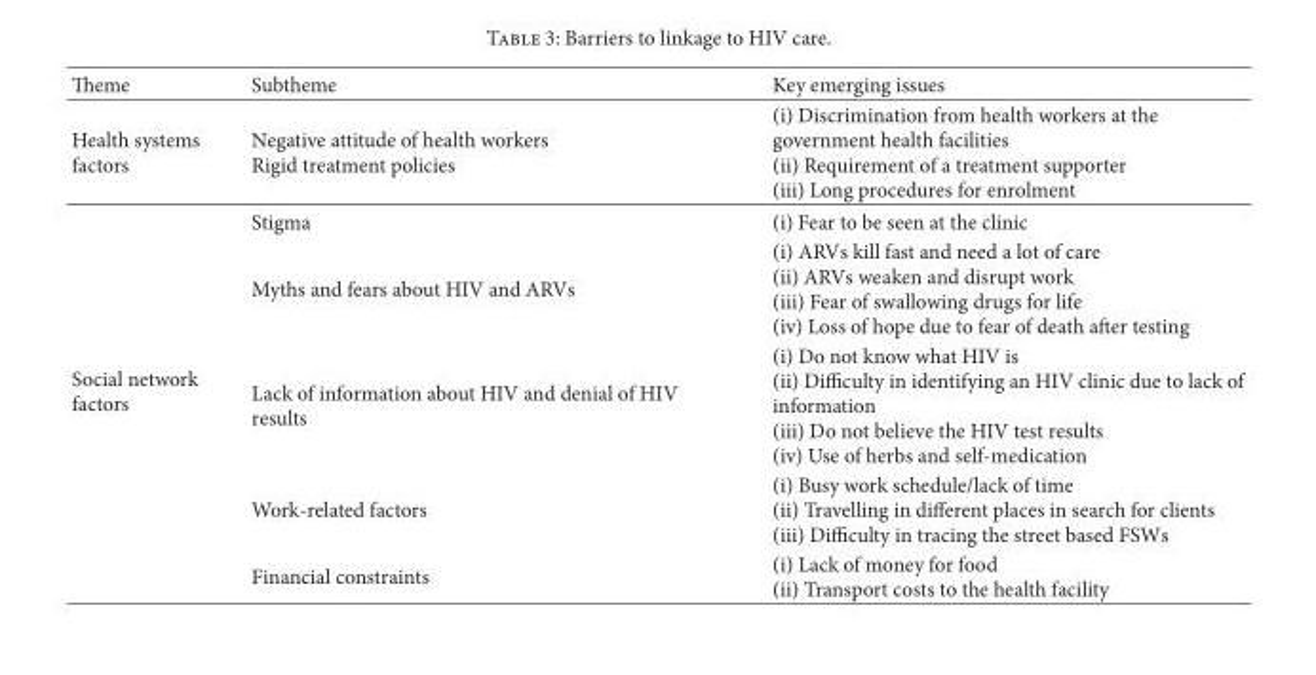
<table><thead><tr><td>Theme</td><td>Subtheme</td><td>Key emerging issues</td></tr></thead><tbody><tr><td>Health systems factors</td><td>Negative attitude of health workers Rigid treatment policies</td><td>(i) Discrimination from health workers at the government health facilities (ii) Requirement of a treatment supporter (iii) Long procedures for enrolment</td></tr><tr><td rowspan="5">Social network factors</td><td>Stigma</td><td>(i) Fear to be seen at the clinic</td></tr><tr><td>Myths and fears about HIV and ARVs</td><td>(i) ARVs kill fast and need a lot of care (ii) ARVs weaken and disrupt work (iii) Fear of swallowing drugs for life (iv) Loss of hope due to fear of death after testing</td></tr><tr><td>Lack of information about HIV and denial of HIV results</td><td>(i) Do not know what HIV is (ii) Difficulty in identifying an HIV clinic due to lack of information (iii) Do not believe the HIV test results (iv) Use of herbs and self-medication</td></tr><tr><td>Work-related factors</td><td>(i) Busy work schedule/lack of time (ii) Travelling in different places in search for clients (iii) Difficulty in tracing the street based FSWs</td></tr><tr><td>Financial constraints</td><td>(i) Lack of money for food (ii) Transport costs to the health facility</td></tr></tbody></table>